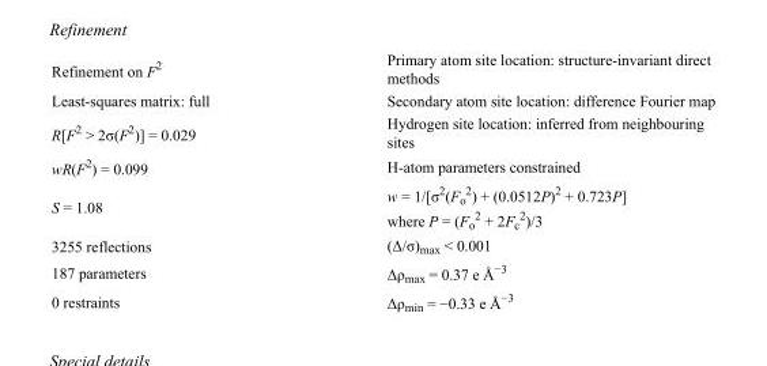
<table><tbody><tr><td>Refinement on F<sup>2</sup></td><td>Primary atom site location: structure-invariant direct methods</td></tr><tr><td>Least-squares matrix: full</td><td>Secondary atom site location: difference Fourier map</td></tr><tr><td>R[F<sup>2</sup> &gt; 2σ(F<sup>2</sup>)] = 0.029</td><td>Hydrogen site location: inferred from neighbouring sites</td></tr><tr><td>wR(F<sup>2</sup>) = 0.099</td><td>H-atom parameters constrained</td></tr><tr><td>S = 1.08</td><td>w = 1/[σ<sup>2</sup>(F<sub>o</sub> <sup>2</sup>) + (0.0512P)<sup>2</sup> + 0.723P] where P = (F<sub>o</sub> <sup>2</sup> + 2F<sub>c</sub> <sup>2</sup>)/3</td></tr><tr><td>3255 reflections</td><td>(Δ/σ)<sub>max</sub> &lt; 0.001</td></tr><tr><td>187 parameters</td><td>Δρ<sub>max</sub> = 0.37 e Å<sup>−3</sup></td></tr><tr><td>0 restraints</td><td>Δρ<sub>min</sub> = −0.33 e Å<sup>−3</sup></td></tr></tbody></table>